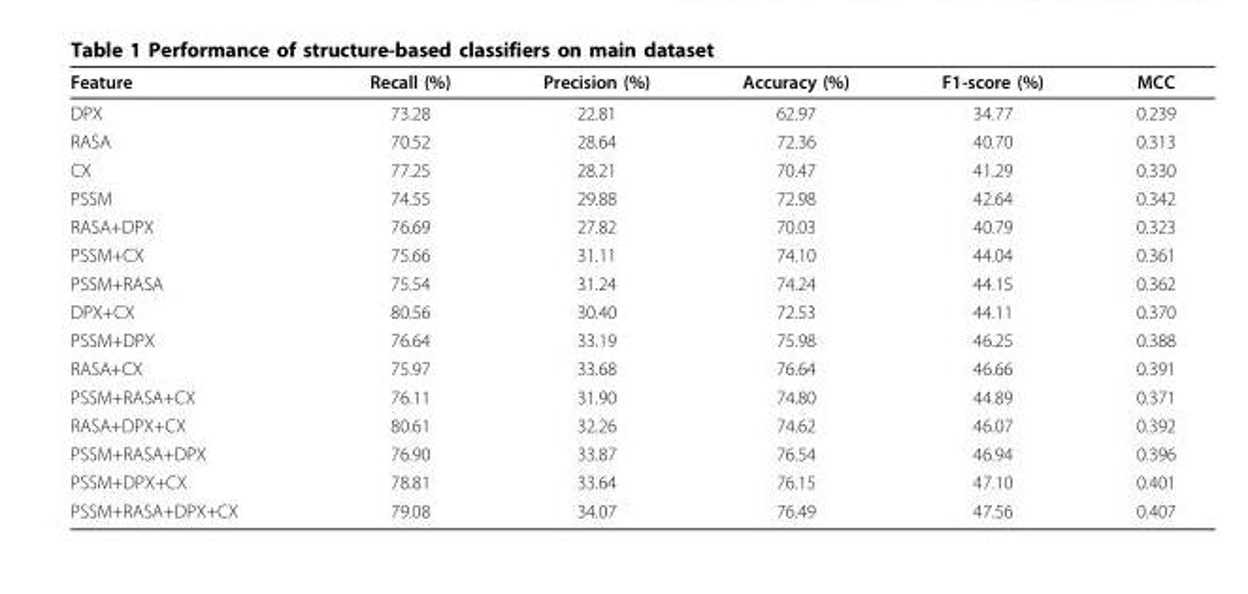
<table><thead><tr><td>Feature</td><td>Recall (%)</td><td>Precision (%)</td><td>Accuracy (%)</td><td>F1-score (%)</td><td>MCC</td></tr></thead><tbody><tr><td>DPX</td><td>73.28</td><td>22.81</td><td>62.97</td><td>34.77</td><td>0.239</td></tr><tr><td>RASA</td><td>70.52</td><td>28.64</td><td>72.36</td><td>40.70</td><td>0.313</td></tr><tr><td>CX</td><td>77.25</td><td>28.21</td><td>70.47</td><td>41.29</td><td>0.330</td></tr><tr><td>PSSM</td><td>74.55</td><td>29.88</td><td>72.98</td><td>42.64</td><td>0.342</td></tr><tr><td>RASA+DPX</td><td>76.69</td><td>27.82</td><td>70.03</td><td>40.79</td><td>0.323</td></tr><tr><td>PSSM+CX</td><td>75.66</td><td>31.11</td><td>74.10</td><td>44.04</td><td>0.361</td></tr><tr><td>PSSM+RASA</td><td>75.54</td><td>31.24</td><td>74.24</td><td>44.15</td><td>0.362</td></tr><tr><td>DPX+CX</td><td>80.56</td><td>30.40</td><td>72.53</td><td>44.11</td><td>0.370</td></tr><tr><td>PSSM+DPX</td><td>76.64</td><td>33.19</td><td>75.98</td><td>46.25</td><td>0.388</td></tr><tr><td>RASA+CX</td><td>75.97</td><td>33.68</td><td>76.64</td><td>46.66</td><td>0.391</td></tr><tr><td>PSSM+RASA+CX</td><td>76.11</td><td>31.90</td><td>74.80</td><td>44.89</td><td>0.371</td></tr><tr><td>RASA+DPX+CX</td><td>80.61</td><td>32.26</td><td>74.62</td><td>46.07</td><td>0.392</td></tr><tr><td>PSSM+RASA+DPX</td><td>76.90</td><td>33.87</td><td>76.54</td><td>46.94</td><td>0.396</td></tr><tr><td>PSSM+DPX+CX</td><td>78.81</td><td>33.64</td><td>76.15</td><td>47.10</td><td>0.401</td></tr><tr><td>PSSM+RASA+DPX+CX</td><td>79.08</td><td>34.07</td><td>76.49</td><td>47.56</td><td>0.407</td></tr></tbody></table>